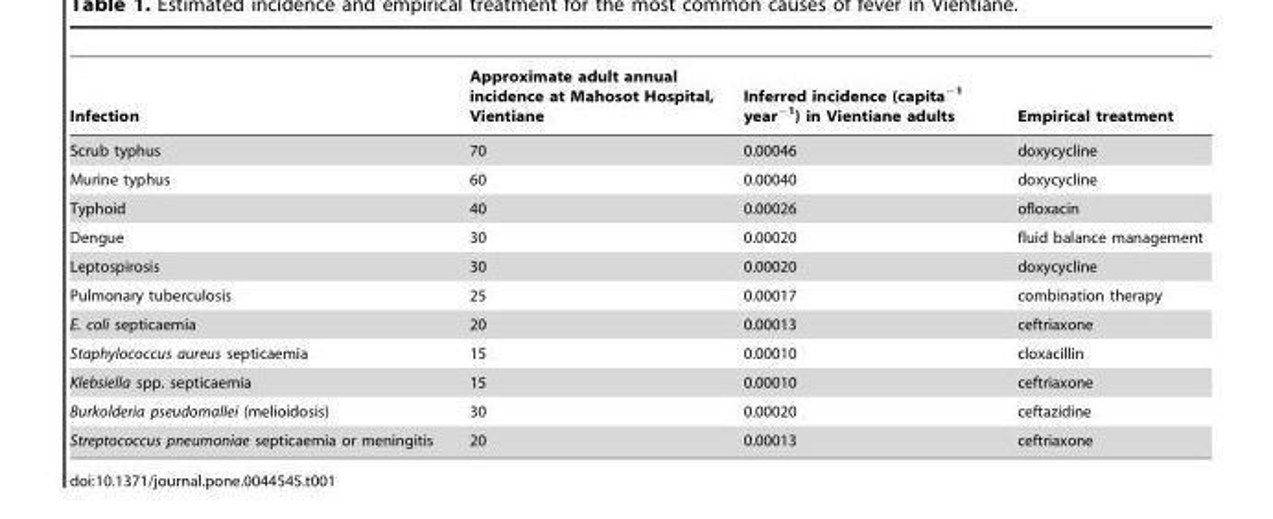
<table><thead><tr><td>Infection</td><td>Approximate adult annual incidence at Mahosot Hospital, Vientiane</td><td>Inferred incidence (capita<sup>−1</sup> year<sup>−1</sup>) in Vientiane adults</td><td>Empirical treatment</td></tr></thead><tbody><tr><td>Scrub typhus</td><td>70</td><td>0.00046</td><td>doxycycline</td></tr><tr><td>Murine typhus</td><td>60</td><td>0.00040</td><td>doxycycline</td></tr><tr><td>Typhoid</td><td>40</td><td>0.00026</td><td>ofloxacin</td></tr><tr><td>Dengue</td><td>30</td><td>0.00020</td><td>fluid balance management</td></tr><tr><td>Leptospirosis</td><td>30</td><td>0.00020</td><td>doxycycline</td></tr><tr><td>Pulmonary tuberculosis</td><td>25</td><td>0.00017</td><td>combination therapy</td></tr><tr><td>E. coli septicaemia</td><td>20</td><td>0.00013</td><td>ceftriaxone</td></tr><tr><td>Staphylococcus aureus septicaemia</td><td>15</td><td>0.00010</td><td>cloxacillin</td></tr><tr><td>Klebsiella spp. septicaemia</td><td>15</td><td>0.00010</td><td>ceftriaxone</td></tr><tr><td>Burkolderia pseudomallei (melioidosis)</td><td>30</td><td>0.00020</td><td>ceftazidine</td></tr><tr><td>Streptococcus pneumoniae septicaemia or meningitis</td><td>20</td><td>0.00013</td><td>ceftriaxone</td></tr></tbody></table>